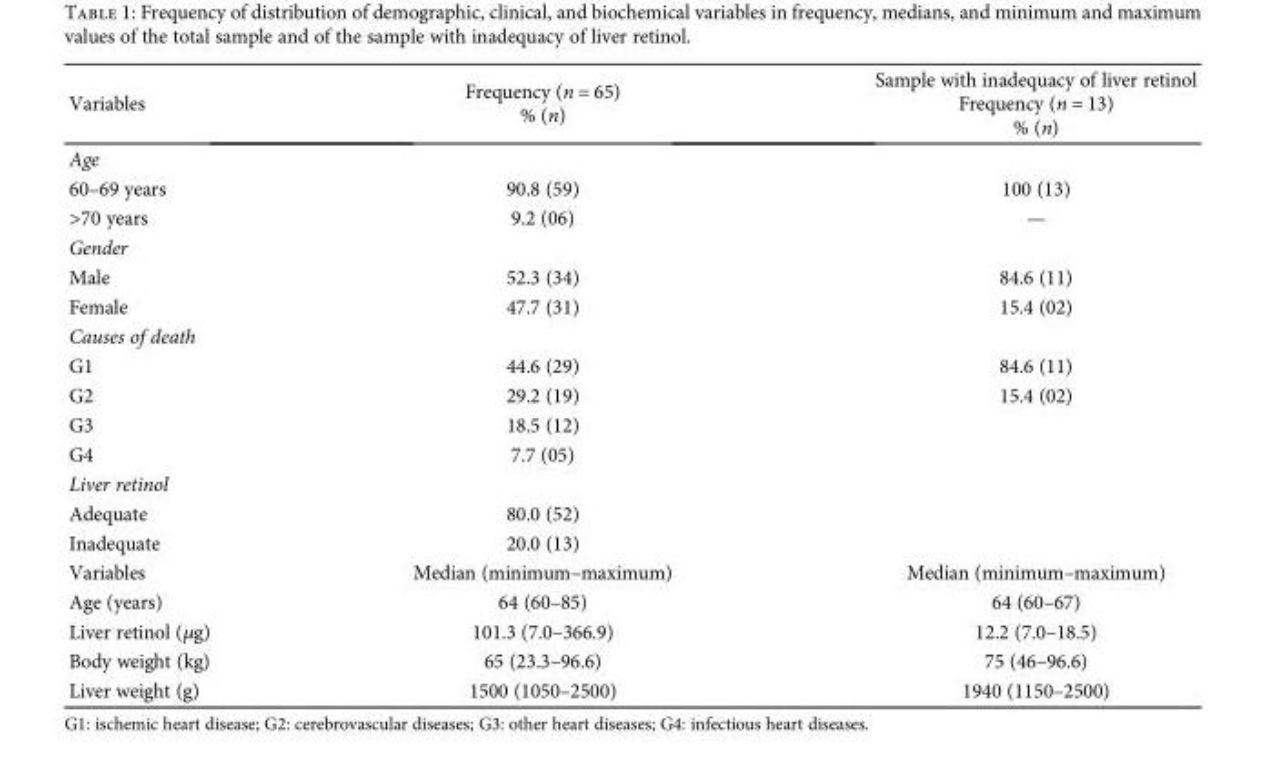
<table><thead><tr><td>Variables</td><td>Frequency (n = 65) % (n)</td><td>Sample with inadequacy of liver retinol Frequency (n = 13) % (n)</td></tr></thead><tbody><tr><td colspan="3">Age</td></tr><tr><td>60–69 years</td><td>90.8 (59)</td><td>100 (13)</td></tr><tr><td>&gt;70 years</td><td>9.2 (06)</td><td>—</td></tr><tr><td colspan="3">Gender</td></tr><tr><td>Male</td><td>52.3 (34)</td><td>84.6 (11)</td></tr><tr><td>Female</td><td>47.7 (31)</td><td>15.4 (02)</td></tr><tr><td colspan="3">Causes of death</td></tr><tr><td>G1</td><td>44.6 (29)</td><td>84.6 (11)</td></tr><tr><td>G2</td><td>29.2 (19)</td><td>15.4 (02)</td></tr><tr><td>G3</td><td>18.5 (12)</td><td rowspan="2"></td></tr><tr><td>G4</td><td>7.7 (05)</td></tr><tr><td colspan="3">Liver retinol</td></tr><tr><td>Adequate</td><td>80.0 (52)</td><td rowspan="2"></td></tr><tr><td>Inadequate</td><td>20.0 (13)</td></tr><tr><td>Variables</td><td>Median (minimum–maximum)</td><td>Median (minimum–maximum)</td></tr><tr><td>Age (years)</td><td>64 (60–85)</td><td>64 (60–67)</td></tr><tr><td>Liver retinol (μg)</td><td>101.3 (7.0–366.9)</td><td>12.2 (7.0–18.5)</td></tr><tr><td>Body weight (kg)</td><td>65 (23.3–96.6)</td><td>75 (46–96.6)</td></tr><tr><td>Liver weight (g)</td><td>1500 (1050–2500)</td><td>1940 (1150–2500)</td></tr></tbody></table>